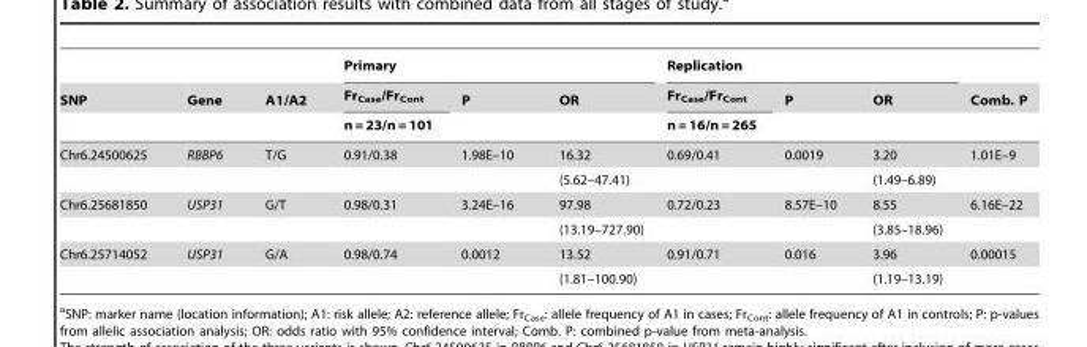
<table><thead><tr><td rowspan="3">SNP</td><td rowspan="3">Gene</td><td rowspan="3">A1/A2</td><td colspan="3">Primary</td><td colspan="3">Replication</td><td rowspan="3">Comb. P</td></tr><tr><td rowspan="2">Fr<sub>Case</sub>/Fr<sub>Cont</sub> n = 23/n = 101</td><td rowspan="2">P</td><td rowspan="2">OR</td><td rowspan="2">Fr<sub>Case</sub>/Fr<sub>Cont</sub> n = 16/n = 265</td><td rowspan="2">P</td><td rowspan="2">OR</td></tr><tr></tr></thead><tbody><tr><td rowspan="2">Chr6.24500625</td><td>RBBP6</td><td>T/G</td><td>0.91/0.38</td><td>1.98E–10</td><td>16.32</td><td>0.69/0.41</td><td>0.0019</td><td>3.20</td><td>1.01E–9</td></tr><tr><td></td><td></td><td></td><td></td><td>(5.62–47.41)</td><td></td><td></td><td>(1.49–6.89)</td><td></td></tr><tr><td rowspan="2">Chr6.25681850</td><td>USP31</td><td>G/T</td><td>0.98/0.31</td><td>3.24E–16</td><td>97.98</td><td>0.72/0.23</td><td>8.57E–10</td><td>8.55</td><td>6.16E–22</td></tr><tr><td></td><td></td><td></td><td></td><td>(13.19–727.90)</td><td></td><td></td><td>(3.85–18.96)</td><td></td></tr><tr><td rowspan="2">Chr6.25714052</td><td>USP31</td><td>G/A</td><td>0.98/0.74</td><td>0.0012</td><td>13.52</td><td>0.91/0.71</td><td>0.016</td><td>3.96</td><td>0.00015</td></tr><tr><td></td><td></td><td></td><td></td><td>(1.81–100.90)</td><td></td><td></td><td>(1.19–13.19)</td><td></td></tr></tbody></table>